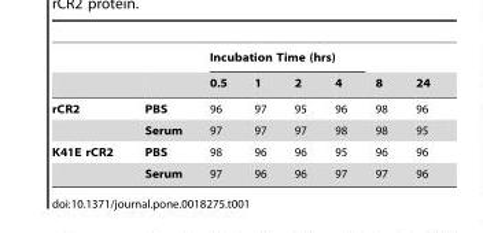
<table><thead><tr><td rowspan="2"></td><td rowspan="2"></td><td colspan="4">Incubation Time (hrs)</td><td rowspan="2">8</td><td rowspan="2">24</td></tr><tr><td>0.5</td><td>1</td><td>2</td><td>4</td></tr></thead><tbody><tr><td rowspan="2">rCR2</td><td>PBS</td><td>96</td><td>97</td><td>95</td><td>96</td><td>98</td><td>96</td></tr><tr><td>Serum</td><td>97</td><td>97</td><td>97</td><td>98</td><td>98</td><td>95</td></tr><tr><td rowspan="2">K41E rCR2</td><td>PBS</td><td>98</td><td>96</td><td>96</td><td>95</td><td>96</td><td>96</td></tr><tr><td>Serum</td><td>97</td><td>96</td><td>96</td><td>97</td><td>97</td><td>96</td></tr></tbody></table>